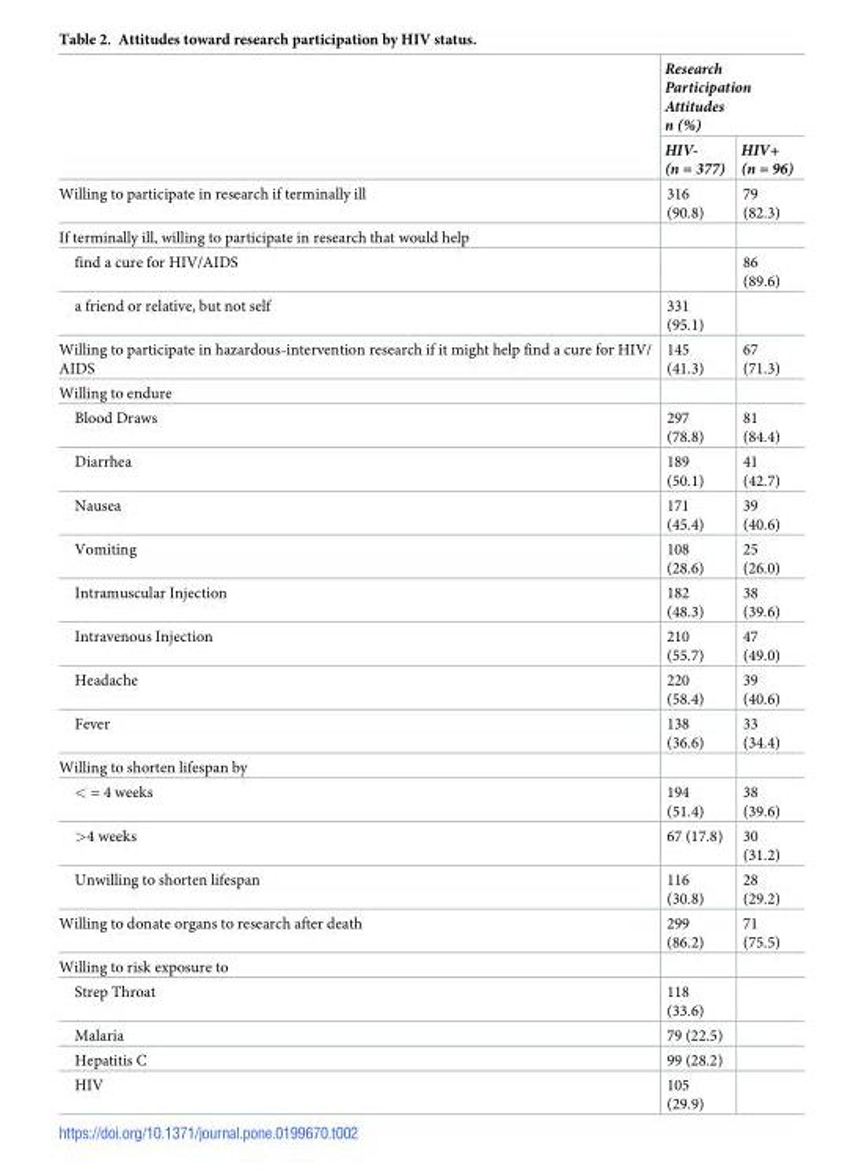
<table><thead><tr><td rowspan="2"></td><td colspan="2">Research Participation Attitudes n (%)</td></tr><tr><td>HIV- (n = 377)</td><td>HIV+ (n = 96)</td></tr></thead><tbody><tr><td>Willing to participate in research if terminally ill</td><td>316 (90.8)</td><td>79 (82.3)</td></tr><tr><td colspan="3">If terminally ill, willing to participate in research that would help</td></tr><tr><td>find a cure for HIV/AIDS</td><td></td><td>86 (89.6)</td></tr><tr><td>a friend or relative, but not self</td><td>331 (95.1)</td><td></td></tr><tr><td>Willing to participate in hazardous-intervention research if it might help find a cure for HIV/ AIDS</td><td>145 (41.3)</td><td>67 (71.3)</td></tr><tr><td colspan="3">Willing to endure</td></tr><tr><td>Blood Draws</td><td>297 (78.8)</td><td>81 (84.4)</td></tr><tr><td>Diarrhea</td><td>189 (50.1)</td><td>41 (42.7)</td></tr><tr><td>Nausea</td><td>171 (45.4)</td><td>39 (40.6)</td></tr><tr><td>Vomiting</td><td>108 (28.6)</td><td>25 (26.0)</td></tr><tr><td>Intramuscular Injection</td><td>182 (48.3)</td><td>38 (39.6)</td></tr><tr><td>Intravenous Injection</td><td>210 (55.7)</td><td>47 (49.0)</td></tr><tr><td>Headache</td><td>220 (58.4)</td><td>39 (40.6)</td></tr><tr><td>Fever</td><td>138 (36.6)</td><td>33 (34.4)</td></tr><tr><td colspan="3">Willing to shorten lifespan by</td></tr><tr><td>&lt; = 4 weeks</td><td>194 (51.4)</td><td>38 (39.6)</td></tr><tr><td>&gt;4 weeks</td><td>67 (17.8)</td><td>30 (31.2)</td></tr><tr><td>Unwilling to shorten lifespan</td><td>116 (30.8)</td><td>28 (29.2)</td></tr><tr><td>Willing to donate organs to research after death</td><td>299 (86.2)</td><td>71 (75.5)</td></tr><tr><td colspan="3">Willing to risk exposure to</td></tr><tr><td>Strep Throat</td><td>118 (33.6)</td><td></td></tr><tr><td>Malaria</td><td>79 (22.5)</td><td></td></tr><tr><td>Hepatitis C</td><td>99 (28.2)</td><td></td></tr><tr><td>HIV</td><td>105 (29.9)</td><td></td></tr></tbody></table>